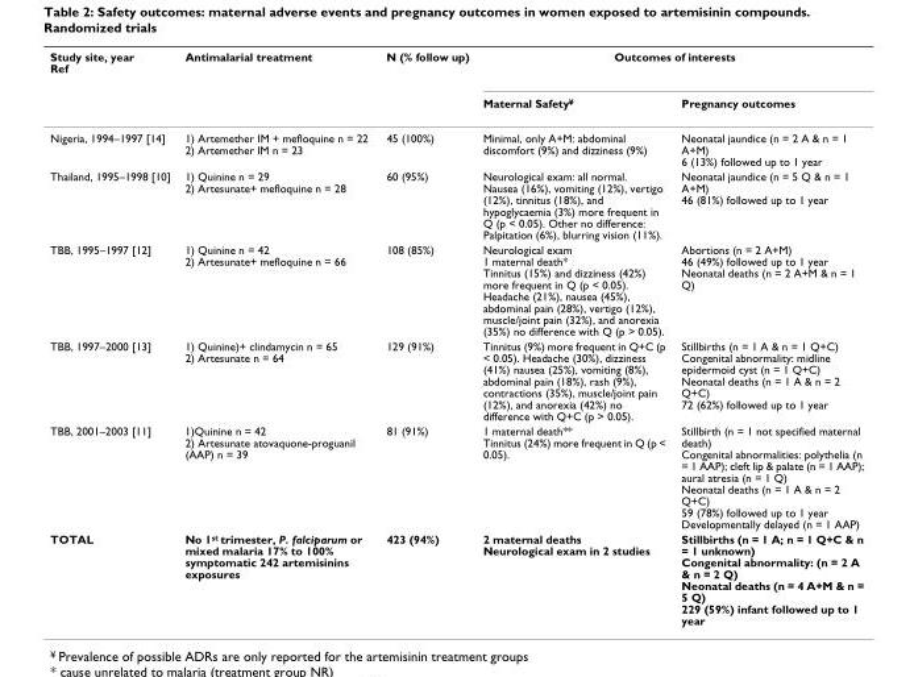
<table><thead><tr><td rowspan="2">Study site, year Ref</td><td rowspan="2">Antimalarial treatment</td><td rowspan="2">N (% follow up)</td><td colspan="2">Outcomes of interests</td></tr><tr><td>Maternal Safety<sup>¥</sup></td><td>Pregnancy outcomes</td></tr></thead><tbody><tr><td>Nigeria, 1994–1997 [14]</td><td>1) Artemether IM + mefloquine n = 22 2) Artemether IM n = 23</td><td>45 (100%)</td><td>Minimal, only A+M: abdominal discomfort (9%) and dizziness (9%)</td><td>Neonatal jaundice (n = 2 A &amp; n = 1 A+M) 6 (13%) followed up to 1 year</td></tr><tr><td>Thailand, 1995–1998 [10]</td><td>1) Quinine n = 29 2) Artesunate+ mefloquine n = 28</td><td>60 (95%)</td><td>Neurological exam: all normal. Nausea (16%), vomiting (12%), vertigo (12%), tinnitus (18%), and hypoglycaemia (3%) more frequent in Q (p &lt; 0.05). Other no difference: Palpitation (6%), blurring vision (11%).</td><td>Neonatal jaundice (n = 5 Q &amp; n = 1 A+M) 46 (81%) followed up to 1 year</td></tr><tr><td>TBB, 1995–1997 [12]</td><td>1) Quinine n = 42 2) Artesunate+ mefloquine n = 66</td><td>108 (85%)</td><td>Neurological exam 1 maternal death* Tinnitus (15%) and dizziness (42%) more frequent in Q (p &lt; 0.05). Headache (21%), nausea (45%), abdominal pain (28%), vertigo (12%), muscle/joint pain (32%), and anorexia (35%) no difference with Q (p &gt; 0.05).</td><td>Abortions (n = 2 A+M) 46 (49%) followed up to 1 year Neonatal deaths (n = 2 A+M &amp; n = 1 Q)</td></tr><tr><td>TBB, 1997–2000 [13]</td><td>1) Quinine)+ clindamycin n = 65 2) Artesunate n = 64</td><td>129 (91%)</td><td>Tinnitus (9%) more frequent in Q+C (p &lt; 0.05). Headache (30%), dizziness (41%) nausea (25%), vomiting (8%), abdominal pain (18%), rash (9%), contractions (35%), muscle/joint pain (12%), and anorexia (42%) no difference with Q+C (p &gt; 0.05).</td><td>Stillbirths (n = 1 A &amp; n = 1 Q+C) Congenital abnormality: midline epidermoid cyst (n = 1 Q+C) Neonatal deaths (n = 1 A &amp; n = 2 Q+C) 72 (62%) followed up to 1 year</td></tr><tr><td>TBB, 2001–2003 [11]</td><td>1)Quinine n = 42 2) Artesunate atovaquone-proguanil (AAP) n = 39</td><td>81 (91%)</td><td>1 maternal death** Tinnitus (24%) more frequent in Q (p &lt; 0.05).</td><td>Stillbirth (n = 1 not specified maternal death) Congenital abnormalities: polythelia (n = 1 AAP); cleft lip &amp; palate (n = 1 AAP); aural atresia (n = 1 Q) Neonatal deaths (n = 1 A &amp; n = 2 Q+C) 59 (78%) followed up to 1 year Developmentally delayed (n = 1 AAP)</td></tr><tr><td>TOTAL</td><td>No 1<sup>st</sup> trimester, P. falciparum or mixed malaria 17% to 100% symptomatic 242 artemisinins exposures</td><td>423 (94%)</td><td>2 maternal deaths Neurological exam in 2 studies</td><td>Stillbirths (n = 1 A; n = 1 Q+C &amp; n = 1 unknown) Congenital abnormality: (n = 2 A &amp; n = 2 Q) Neonatal deaths (n = 4 A+M &amp; n = 5 Q) 229 (59%) infant followed up to 1 year</td></tr></tbody></table>